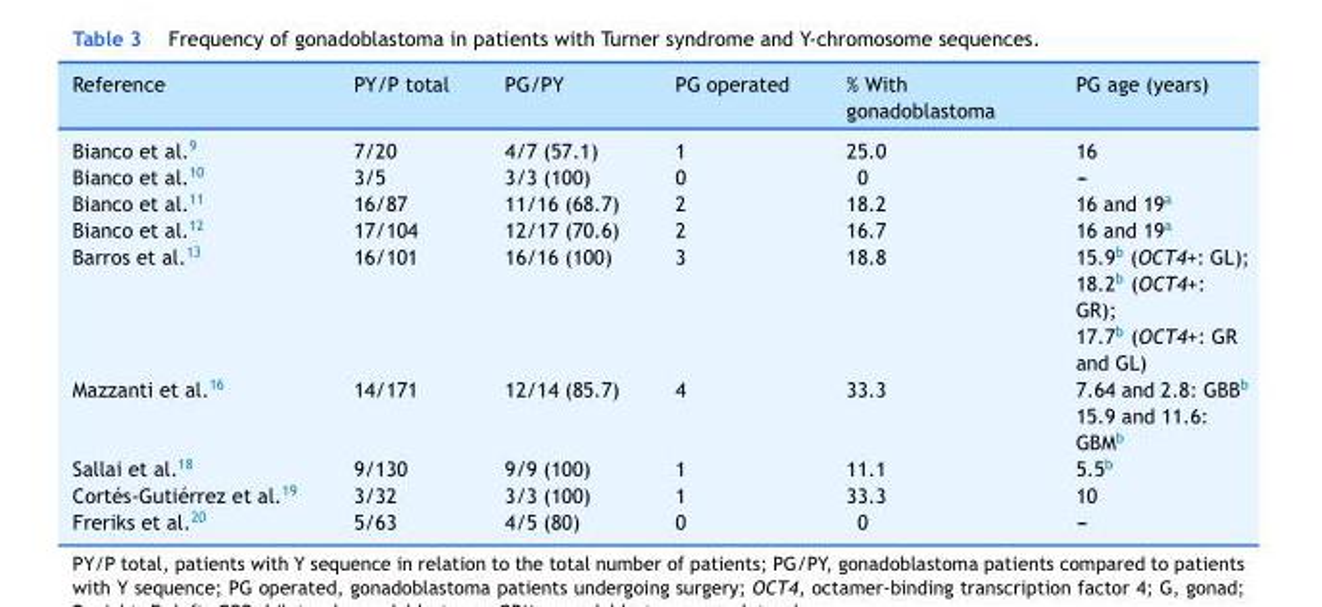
<table><thead><tr><td>Reference</td><td>PY/P total</td><td>PG/PY</td><td>PG operated</td><td>% With gonadoblastoma</td><td>PG age (years)</td></tr></thead><tbody><tr><td>Bianco et al.9</td><td>7/20</td><td>4/7 (57.1)</td><td>1</td><td>25.0</td><td>16</td></tr><tr><td>Bianco et al.10</td><td>3/5</td><td>3/3 (100)</td><td>0</td><td>0</td><td>---</td></tr><tr><td>Bianco et al.11</td><td>16/87</td><td>11/16 (68.7)</td><td>2</td><td>18.2</td><td>16 and 19a</td></tr><tr><td>Bianco et al.12</td><td>17/104</td><td>12/17 (70.6)</td><td>2</td><td>16.7</td><td>16 and 19a</td></tr><tr><td>Barros et al.13</td><td>16/101</td><td>16/16 (100)</td><td>3</td><td>18.8</td><td>15.9b (OCT4+: GL); 18.2b (OCT4+: GR); 17.7b (OCT4+: GR and GL)</td></tr><tr><td>Mazzanti et al.16</td><td>14/171</td><td>12/14 (85.7)</td><td>4</td><td>33.3</td><td>7.64 and 2.8: GBBb 15.9 and 11.6: GBMb</td></tr><tr><td>Sallai et al.18</td><td>9/130</td><td>9/9 (100)</td><td>1</td><td>11.1</td><td>5.5b</td></tr><tr><td>Cortés-Gutiérrez et al.19</td><td>3/32</td><td>3/3 (100)</td><td>1</td><td>33.3</td><td>10</td></tr><tr><td>Freriks et al.20</td><td>5/63</td><td>4/5 (80)</td><td>0</td><td>0</td><td>---</td></tr></tbody></table>